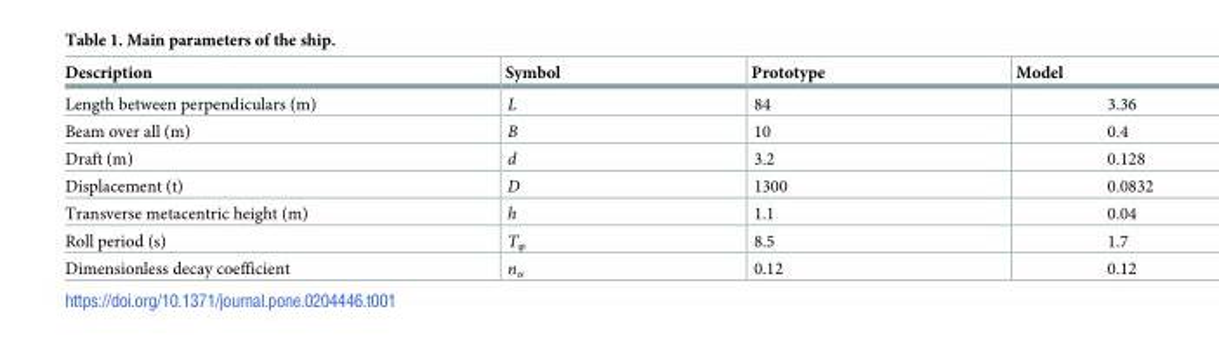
<table><thead><tr><td>Description</td><td>Symbol</td><td>Prototype</td><td>Model</td></tr></thead><tbody><tr><td>Length between perpendiculars (m)</td><td>L</td><td>84</td><td>3.36</td></tr><tr><td>Beam over all (m)</td><td>B</td><td>10</td><td>0.4</td></tr><tr><td>Draft (m)</td><td>d</td><td>3.2</td><td>0.128</td></tr><tr><td>Displacement (t)</td><td>D</td><td>1300</td><td>0.0832</td></tr><tr><td>Transverse metacentric height (m)</td><td>h</td><td>1.1</td><td>0.04</td></tr><tr><td>Roll period (s)</td><td>T<sub>φ</sub></td><td>8.5</td><td>1.7</td></tr><tr><td>Dimensionless decay coefficient</td><td>n<sub>u</sub></td><td>0.12</td><td>0.12</td></tr></tbody></table>